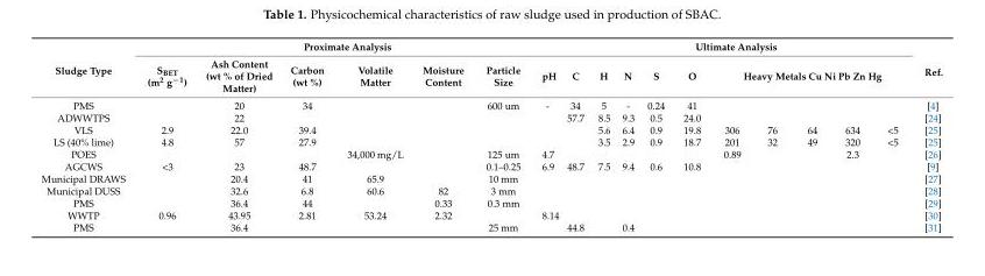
<table><thead><tr><td rowspan="3">Sludge Type PMS</td><td colspan="7">Proximate Analysis</td><td colspan="10">Ultimate Analysis</td><td rowspan="3">Ref. [4]</td></tr><tr><td rowspan="2">S<sub>BET</sub> (m<sup>2</sup> g<sup>−1</sup>)</td><td rowspan="2">Ash Content (wt % of Dried Matter) 20</td><td rowspan="2">Carbon (wt %) 34</td><td rowspan="2">Volatile Matter</td><td rowspan="2">Moisture Content</td><td rowspan="2">Particle Size 600 um</td><td rowspan="2">pH -</td><td rowspan="2">C 34</td><td rowspan="2">H 5</td><td rowspan="2">N -</td><td rowspan="2">S 0.24</td><td rowspan="2">O 41</td><td colspan="5">Heavy Metals Cu Ni Pb Zn Hg</td></tr><tr><td></td><td></td><td></td><td></td><td></td></tr></thead><tbody><tr><td>ADWWTPS</td><td></td><td>22</td><td></td><td></td><td></td><td></td><td></td><td>57.7</td><td>8.5</td><td>9.3</td><td>0.5</td><td>24.0</td><td></td><td></td><td></td><td></td><td></td><td>[24]</td></tr><tr><td>VLS</td><td>2.9</td><td>22.0</td><td>39.4</td><td></td><td></td><td></td><td></td><td></td><td>5.6</td><td>6.4</td><td>0.9</td><td>19.8</td><td>306</td><td>76</td><td>64</td><td>634</td><td>&lt;5</td><td>[25]</td></tr><tr><td>LS (40% lime)</td><td>4.8</td><td>57</td><td>27.9</td><td></td><td></td><td></td><td></td><td></td><td>3.5</td><td>2.9</td><td>0.9</td><td>18.7</td><td>201</td><td>32</td><td>49</td><td>320</td><td>&lt;5</td><td>[25]</td></tr><tr><td>POES</td><td></td><td></td><td></td><td>34,000 mg/L</td><td></td><td>125 um</td><td>4.7</td><td></td><td></td><td></td><td></td><td></td><td>0.89</td><td></td><td></td><td>2.3</td><td></td><td>[26]</td></tr><tr><td>AGCWS</td><td>&lt;3</td><td>23</td><td>48.7</td><td></td><td></td><td>0.1–0.25</td><td>6.9</td><td>48.7</td><td>7.5</td><td>9.4</td><td>0.6</td><td>10.8</td><td></td><td></td><td></td><td></td><td></td><td>[9]</td></tr><tr><td>Municipal DRAWS</td><td></td><td>20.4</td><td>41</td><td>65.9</td><td></td><td>10 mm</td><td></td><td></td><td></td><td></td><td></td><td></td><td></td><td></td><td></td><td></td><td></td><td>[27]</td></tr><tr><td>Municipal DUSS</td><td></td><td>32.6</td><td>6.8</td><td>60.6</td><td>82</td><td>3 mm</td><td></td><td></td><td></td><td></td><td></td><td></td><td></td><td></td><td></td><td></td><td></td><td>[28]</td></tr><tr><td>PMS</td><td></td><td>36.4</td><td>44</td><td></td><td>0.33</td><td>0.3 mm</td><td></td><td></td><td></td><td></td><td></td><td></td><td></td><td></td><td></td><td></td><td></td><td>[29]</td></tr><tr><td>WWTP</td><td>0.96</td><td>43.95</td><td>2.81</td><td>53.24</td><td>2.32</td><td></td><td>8.14</td><td></td><td></td><td></td><td></td><td></td><td></td><td></td><td></td><td></td><td></td><td>[30]</td></tr><tr><td>PMS</td><td></td><td>36.4</td><td></td><td></td><td></td><td>25 mm</td><td></td><td>44.8</td><td></td><td>0.4</td><td></td><td></td><td></td><td></td><td></td><td></td><td></td><td>[31]</td></tr></tbody></table>